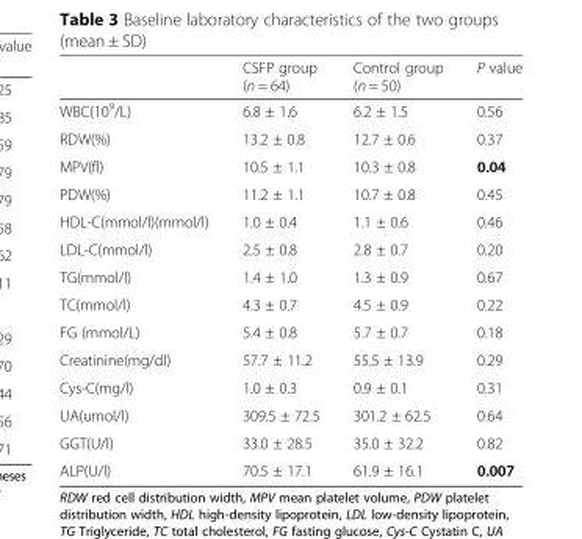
<table><thead><tr><td></td><td>CSFP group (n = 64)</td><td>Control group (n = 50)</td><td>P value</td></tr></thead><tbody><tr><td>WBC(10<sup>9</sup>/L)</td><td>6.8 ± 1.6</td><td>6.2 ± 1.5</td><td>0.56</td></tr><tr><td>RDW(%)</td><td>13.2 ± 0.8</td><td>12.7 ± 0.6</td><td>0.37</td></tr><tr><td>MPV(fl)</td><td>10.5 ± 1.1</td><td>10.3 ± 0.8</td><td>0.04</td></tr><tr><td>PDW(%)</td><td>11.2 ± 1.1</td><td>10.7 ± 0.8</td><td>0.45</td></tr><tr><td>HDL-C(mmol/l)(mmol/l)</td><td>1.0 ± 0.4</td><td>1.1 ± 0.6</td><td>0.46</td></tr><tr><td>LDL-C(mmol/l)</td><td>2.5 ± 0.8</td><td>2.8 ± 0.7</td><td>0.20</td></tr><tr><td>TG(mmol/l)</td><td>1.4 ± 1.0</td><td>1.3 ± 0.9</td><td>0.67</td></tr><tr><td>TC(mmol/l)</td><td>4.3 ± 0.7</td><td>4.5 ± 0.9</td><td>0.22</td></tr><tr><td>FG (mmol/L)</td><td>5.4 ± 0.8</td><td>5.7 ± 0.7</td><td>0.18</td></tr><tr><td>Creatinine(mg/dl)</td><td>57.7 ± 11.2</td><td>55.5 ± 13.9</td><td>0.29</td></tr><tr><td>Cys-C(mg/l)</td><td>1.0 ± 0.3</td><td>0.9 ± 0.1</td><td>0.31</td></tr><tr><td>UA(umol/l)</td><td>309.5 ± 72.5</td><td>301.2 ± 62.5</td><td>0.64</td></tr><tr><td>GGT(U/l)</td><td>33.0 ± 28.5</td><td>35.0 ± 32.2</td><td>0.82</td></tr><tr><td>ALP(U/l)</td><td>70.5 ± 17.1</td><td>61.9 ± 16.1</td><td>0.007</td></tr></tbody></table>